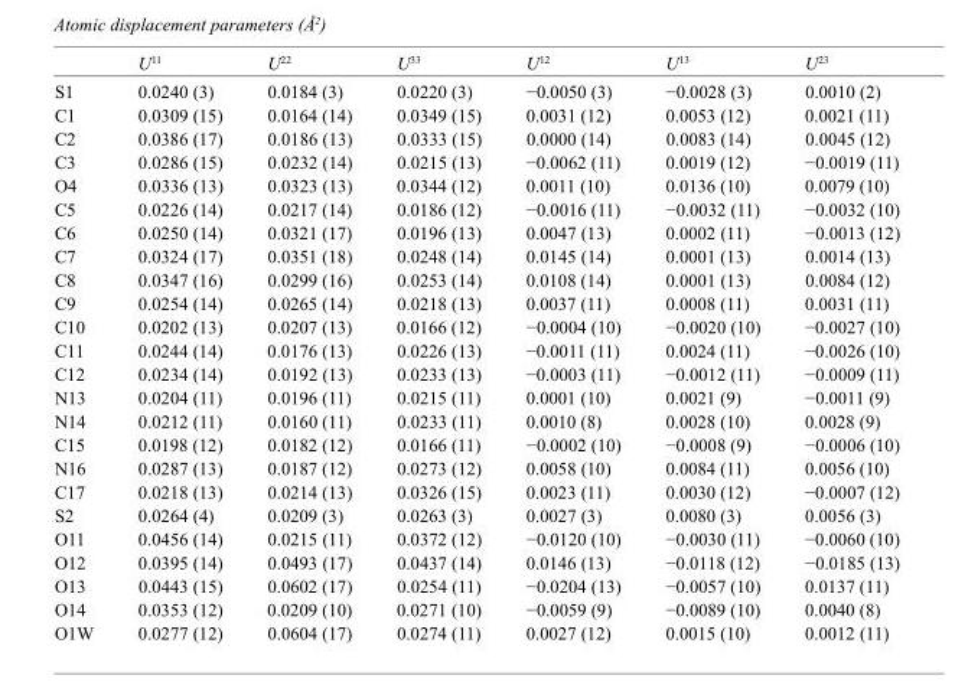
<table><thead><tr><td></td><td>U<sup>11</sup></td><td>U<sup>22</sup></td><td>U<sup>33</sup></td><td>U<sup>12</sup></td><td>U<sup>13</sup></td><td>U<sup>23</sup></td></tr></thead><tbody><tr><td>S1</td><td>0.0240 (3)</td><td>0.0184 (3)</td><td>0.0220 (3)</td><td>−0.0050 (3)</td><td>−0.0028 (3)</td><td>0.0010 (2)</td></tr><tr><td>C1</td><td>0.0309 (15)</td><td>0.0164 (14)</td><td>0.0349 (15)</td><td>0.0031 (12)</td><td>0.0053 (12)</td><td>0.0021 (11)</td></tr><tr><td>C2</td><td>0.0386 (17)</td><td>0.0186 (13)</td><td>0.0333 (15)</td><td>0.0000 (14)</td><td>0.0083 (14)</td><td>0.0045 (12)</td></tr><tr><td>C3</td><td>0.0286 (15)</td><td>0.0232 (14)</td><td>0.0215 (13)</td><td>−0.0062 (11)</td><td>0.0019 (12)</td><td>−0.0019 (11)</td></tr><tr><td>O4</td><td>0.0336 (13)</td><td>0.0323 (13)</td><td>0.0344 (12)</td><td>0.0011 (10)</td><td>0.0136 (10)</td><td>0.0079 (10)</td></tr><tr><td>C5</td><td>0.0226 (14)</td><td>0.0217 (14)</td><td>0.0186 (12)</td><td>−0.0016 (11)</td><td>−0.0032 (11)</td><td>−0.0032 (10)</td></tr><tr><td>C6</td><td>0.0250 (14)</td><td>0.0321 (17)</td><td>0.0196 (13)</td><td>0.0047 (13)</td><td>0.0002 (11)</td><td>−0.0013 (12)</td></tr><tr><td>C7</td><td>0.0324 (17)</td><td>0.0351 (18)</td><td>0.0248 (14)</td><td>0.0145 (14)</td><td>0.0001 (13)</td><td>0.0014 (13)</td></tr><tr><td>C8</td><td>0.0347 (16)</td><td>0.0299 (16)</td><td>0.0253 (14)</td><td>0.0108 (14)</td><td>0.0001 (13)</td><td>0.0084 (12)</td></tr><tr><td>C9</td><td>0.0254 (14)</td><td>0.0265 (14)</td><td>0.0218 (13)</td><td>0.0037 (11)</td><td>0.0008 (11)</td><td>0.0031 (11)</td></tr><tr><td>C10</td><td>0.0202 (13)</td><td>0.0207 (13)</td><td>0.0166 (12)</td><td>−0.0004 (10)</td><td>−0.0020 (10)</td><td>−0.0027 (10)</td></tr><tr><td>C11</td><td>0.0244 (14)</td><td>0.0176 (13)</td><td>0.0226 (13)</td><td>−0.0011 (11)</td><td>0.0024 (11)</td><td>−0.0026 (10)</td></tr><tr><td>C12</td><td>0.0234 (14)</td><td>0.0192 (13)</td><td>0.0233 (13)</td><td>−0.0003 (11)</td><td>−0.0012 (11)</td><td>−0.0009 (11)</td></tr><tr><td>N13</td><td>0.0204 (11)</td><td>0.0196 (11)</td><td>0.0215 (11)</td><td>0.0001 (10)</td><td>0.0021 (9)</td><td>−0.0011 (9)</td></tr><tr><td>N14</td><td>0.0212 (11)</td><td>0.0160 (11)</td><td>0.0233 (11)</td><td>0.0010 (8)</td><td>0.0028 (10)</td><td>0.0028 (9)</td></tr><tr><td>C15</td><td>0.0198 (12)</td><td>0.0182 (12)</td><td>0.0166 (11)</td><td>−0.0002 (10)</td><td>−0.0008 (9)</td><td>−0.0006 (10)</td></tr><tr><td>N16</td><td>0.0287 (13)</td><td>0.0187 (12)</td><td>0.0273 (12)</td><td>0.0058 (10)</td><td>0.0084 (11)</td><td>0.0056 (10)</td></tr><tr><td>C17</td><td>0.0218 (13)</td><td>0.0214 (13)</td><td>0.0326 (15)</td><td>0.0023 (11)</td><td>0.0030 (12)</td><td>−0.0007 (12)</td></tr><tr><td>S2</td><td>0.0264 (4)</td><td>0.0209 (3)</td><td>0.0263 (3)</td><td>0.0027 (3)</td><td>0.0080 (3)</td><td>0.0056 (3)</td></tr><tr><td>O11</td><td>0.0456 (14)</td><td>0.0215 (11)</td><td>0.0372 (12)</td><td>−0.0120 (10)</td><td>−0.0030 (11)</td><td>−0.0060 (10)</td></tr><tr><td>O12</td><td>0.0395 (14)</td><td>0.0493 (17)</td><td>0.0437 (14)</td><td>0.0146 (13)</td><td>−0.0118 (12)</td><td>−0.0185 (13)</td></tr><tr><td>O13</td><td>0.0443 (15)</td><td>0.0602 (17)</td><td>0.0254 (11)</td><td>−0.0204 (13)</td><td>−0.0057 (10)</td><td>0.0137 (11)</td></tr><tr><td>O14</td><td>0.0353 (12)</td><td>0.0209 (10)</td><td>0.0271 (10)</td><td>−0.0059 (9)</td><td>−0.0089 (10)</td><td>0.0040 (8)</td></tr><tr><td>O1W</td><td>0.0277 (12)</td><td>0.0604 (17)</td><td>0.0274 (11)</td><td>0.0027 (12)</td><td>0.0015 (10)</td><td>0.0012 (11)</td></tr></tbody></table>